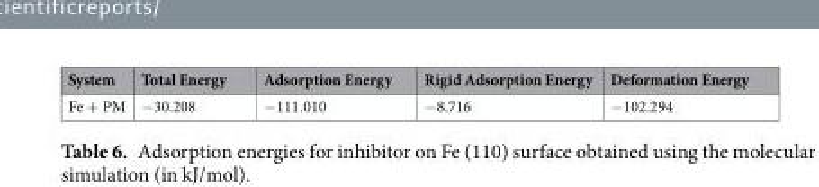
<table><thead><tr><td>System</td><td>Total Energy</td><td>Adsorption Energy</td><td>Rigid Adsorption Energy</td><td>Deformation Energy</td></tr></thead><tbody><tr><td>Fe + PM</td><td>−30.208</td><td>−111.010</td><td>−8.716</td><td>−102.294</td></tr></tbody></table>